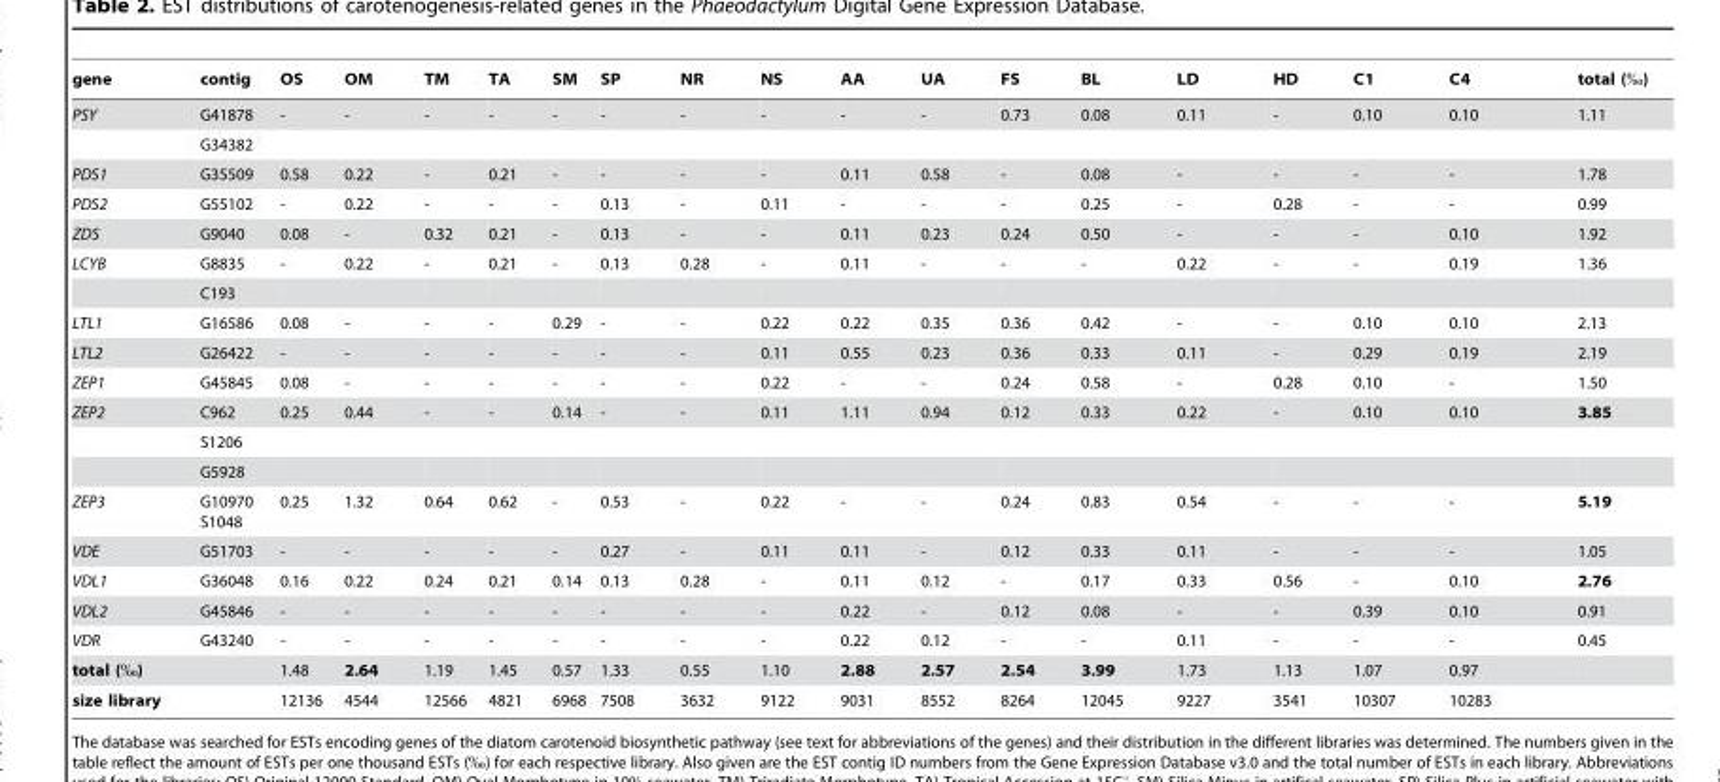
<table><thead><tr><td>gene</td><td>contig</td><td>OS</td><td>OM</td><td>TM</td><td>TA</td><td>SM</td><td>SP</td><td>NR</td><td>NS</td><td>AA</td><td>UA</td><td>FS</td><td>BL</td><td>LD</td><td>HD</td><td>C1</td><td>C4</td><td>total (‰)</td></tr></thead><tbody><tr><td rowspan="2">PSY</td><td>G41878</td><td>-</td><td>-</td><td>-</td><td>-</td><td>-</td><td>-</td><td>-</td><td>-</td><td>-</td><td>-</td><td>0.73</td><td>0.08</td><td>0.11</td><td>-</td><td>0.10</td><td>0.10</td><td>1.11</td></tr><tr><td>G34382</td><td></td><td></td><td></td><td></td><td></td><td></td><td></td><td></td><td></td><td></td><td></td><td></td><td></td><td></td><td></td><td></td><td></td></tr><tr><td>PDS1</td><td>G35509</td><td>0.58</td><td>0.22</td><td>-</td><td>0.21</td><td>-</td><td>-</td><td>-</td><td>-</td><td>0.11</td><td>0.58</td><td>-</td><td>0.08</td><td>-</td><td>-</td><td>-</td><td>-</td><td>1.78</td></tr><tr><td>PDS2</td><td>G55102</td><td>-</td><td>0.22</td><td>-</td><td>-</td><td>-</td><td>0.13</td><td>-</td><td>0.11</td><td>-</td><td>-</td><td>-</td><td>0.25</td><td>-</td><td>0.28</td><td>-</td><td>-</td><td>0.99</td></tr><tr><td>ZDS</td><td>G9040</td><td>0.08</td><td>-</td><td>0.32</td><td>0.21</td><td>-</td><td>0.13</td><td>-</td><td>-</td><td>0.11</td><td>0.23</td><td>0.24</td><td>0.50</td><td>-</td><td>-</td><td>-</td><td>0.10</td><td>1.92</td></tr><tr><td rowspan="2">LCYB</td><td>G8835</td><td>-</td><td>0.22</td><td>-</td><td>0.21</td><td>-</td><td>0.13</td><td>0.28</td><td>-</td><td>0.11</td><td>-</td><td>-</td><td>-</td><td>0.22</td><td>-</td><td>-</td><td>0.19</td><td>1.36</td></tr><tr><td>C193</td><td></td><td></td><td></td><td></td><td></td><td></td><td></td><td></td><td></td><td></td><td></td><td></td><td></td><td></td><td></td><td></td><td></td></tr><tr><td>LTL1</td><td>G16586</td><td>0.08</td><td>-</td><td>-</td><td>-</td><td>0.29</td><td>-</td><td>-</td><td>0.22</td><td>0.22</td><td>0.35</td><td>0.36</td><td>0.42</td><td>-</td><td>-</td><td>0.10</td><td>0.10</td><td>2.13</td></tr><tr><td>LTL2</td><td>G26422</td><td>-</td><td>-</td><td>-</td><td>-</td><td>-</td><td>-</td><td>-</td><td>0.11</td><td>0.55</td><td>0.23</td><td>0.36</td><td>0.33</td><td>0.11</td><td>-</td><td>0.29</td><td>0.19</td><td>2.19</td></tr><tr><td>ZEP1</td><td>G45845</td><td>0.08</td><td>-</td><td>-</td><td>-</td><td>-</td><td>-</td><td>-</td><td>0.22</td><td>-</td><td>-</td><td>0.24</td><td>0.58</td><td>-</td><td>0.28</td><td>0.10</td><td>-</td><td>1.50</td></tr><tr><td rowspan="3">ZEP2</td><td>C962</td><td>0.25</td><td>0.44</td><td>-</td><td>-</td><td>0.14</td><td>-</td><td>-</td><td>0.11</td><td>1.11</td><td>0.94</td><td>0.12</td><td>0.33</td><td>0.22</td><td>-</td><td>0.10</td><td>0.10</td><td>3.85</td></tr><tr><td>S1206</td><td></td><td></td><td></td><td></td><td></td><td></td><td></td><td></td><td></td><td></td><td></td><td></td><td></td><td></td><td></td><td></td><td></td></tr><tr><td>G5928</td><td></td><td></td><td></td><td></td><td></td><td></td><td></td><td></td><td></td><td></td><td></td><td></td><td></td><td></td><td></td><td></td><td></td></tr><tr><td>ZEP3</td><td>G10970 S1048</td><td>0.25</td><td>1.32</td><td>0.64</td><td>0.62</td><td>-</td><td>0.53</td><td>-</td><td>0.22</td><td>-</td><td>-</td><td>0.24</td><td>0.83</td><td>0.54</td><td>-</td><td>-</td><td>-</td><td>5.19</td></tr><tr><td>VDE</td><td>G51703</td><td>-</td><td>-</td><td>-</td><td>-</td><td>-</td><td>0.27</td><td>-</td><td>0.11</td><td>0.11</td><td>-</td><td>0.12</td><td>0.33</td><td>0.11</td><td>-</td><td>-</td><td>-</td><td>1.05</td></tr><tr><td>VDL1</td><td>G36048</td><td>0.16</td><td>0.22</td><td>0.24</td><td>0.21</td><td>0.14</td><td>0.13</td><td>0.28</td><td>-</td><td>0.11</td><td>0.12</td><td>-</td><td>0.17</td><td>0.33</td><td>0.56</td><td>-</td><td>0.10</td><td>2.76</td></tr><tr><td>VDL2</td><td>G45846</td><td>-</td><td>-</td><td>-</td><td>-</td><td>-</td><td>-</td><td>-</td><td>-</td><td>0.22</td><td>-</td><td>0.12</td><td>0.08</td><td>-</td><td>-</td><td>0.39</td><td>0.10</td><td>0.91</td></tr><tr><td>VDR</td><td>G43240</td><td>-</td><td>-</td><td>-</td><td>-</td><td>-</td><td>-</td><td>-</td><td>-</td><td>0.22</td><td>0.12</td><td>-</td><td>-</td><td>0.11</td><td>-</td><td>-</td><td>-</td><td>0.45</td></tr><tr><td>total (‰)</td><td></td><td>1.48</td><td>2.64</td><td>1.19</td><td>1.45</td><td>0.57</td><td>1.33</td><td>0.55</td><td>1.10</td><td>2.88</td><td>2.57</td><td>2.54</td><td>3.99</td><td>1.73</td><td>1.13</td><td>1.07</td><td>0.97</td><td></td></tr><tr><td>size library</td><td></td><td>12136</td><td>4544</td><td>12566</td><td>4821</td><td>6968</td><td>7508</td><td>3632</td><td>9122</td><td>9031</td><td>8552</td><td>8264</td><td>12045</td><td>9227</td><td>3541</td><td>10307</td><td>10283</td><td></td></tr></tbody></table>